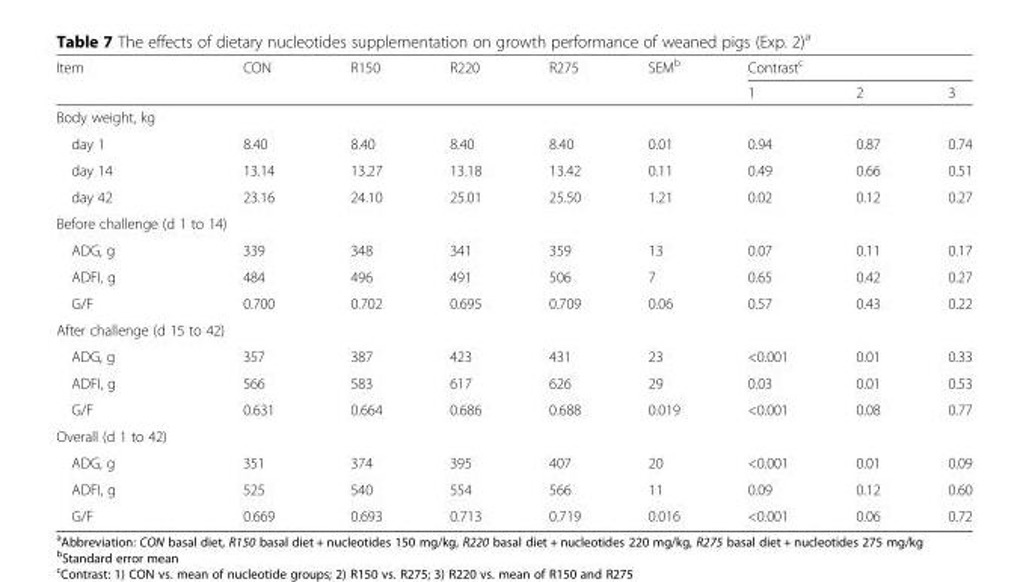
<table><thead><tr><td rowspan="2">Item</td><td rowspan="2">CON</td><td rowspan="2">R150</td><td rowspan="2">R220</td><td rowspan="2">R275</td><td rowspan="2">SEM<sup>b</sup></td><td colspan="3">Contrast<sup>c</sup></td></tr><tr><td>1</td><td>2</td><td>3</td></tr></thead><tbody><tr><td colspan="9">Body weight, kg</td></tr><tr><td>day 1</td><td>8.40</td><td>8.40</td><td>8.40</td><td>8.40</td><td>0.01</td><td>0.94</td><td>0.87</td><td>0.74</td></tr><tr><td>day 14</td><td>13.14</td><td>13.27</td><td>13.18</td><td>13.42</td><td>0.11</td><td>0.49</td><td>0.66</td><td>0.51</td></tr><tr><td>day 42</td><td>23.16</td><td>24.10</td><td>25.01</td><td>25.50</td><td>1.21</td><td>0.02</td><td>0.12</td><td>0.27</td></tr><tr><td colspan="9">Before challenge (d 1 to 14)</td></tr><tr><td>ADG, g</td><td>339</td><td>348</td><td>341</td><td>359</td><td>13</td><td>0.07</td><td>0.11</td><td>0.17</td></tr><tr><td>ADFI, g</td><td>484</td><td>496</td><td>491</td><td>506</td><td>7</td><td>0.65</td><td>0.42</td><td>0.27</td></tr><tr><td>G/F</td><td>0.700</td><td>0.702</td><td>0.695</td><td>0.709</td><td>0.06</td><td>0.57</td><td>0.43</td><td>0.22</td></tr><tr><td colspan="9">After challenge (d 15 to 42)</td></tr><tr><td>ADG, g</td><td>357</td><td>387</td><td>423</td><td>431</td><td>23</td><td>&lt;0.001</td><td>0.01</td><td>0.33</td></tr><tr><td>ADFI, g</td><td>566</td><td>583</td><td>617</td><td>626</td><td>29</td><td>0.03</td><td>0.01</td><td>0.53</td></tr><tr><td>G/F</td><td>0.631</td><td>0.664</td><td>0.686</td><td>0.688</td><td>0.019</td><td>&lt;0.001</td><td>0.08</td><td>0.77</td></tr><tr><td colspan="9">Overall (d 1 to 42)</td></tr><tr><td>ADG, g</td><td>351</td><td>374</td><td>395</td><td>407</td><td>20</td><td>&lt;0.001</td><td>0.01</td><td>0.09</td></tr><tr><td>ADFI, g</td><td>525</td><td>540</td><td>554</td><td>566</td><td>11</td><td>0.09</td><td>0.12</td><td>0.60</td></tr><tr><td>G/F</td><td>0.669</td><td>0.693</td><td>0.713</td><td>0.719</td><td>0.016</td><td>&lt;0.001</td><td>0.06</td><td>0.72</td></tr></tbody></table>